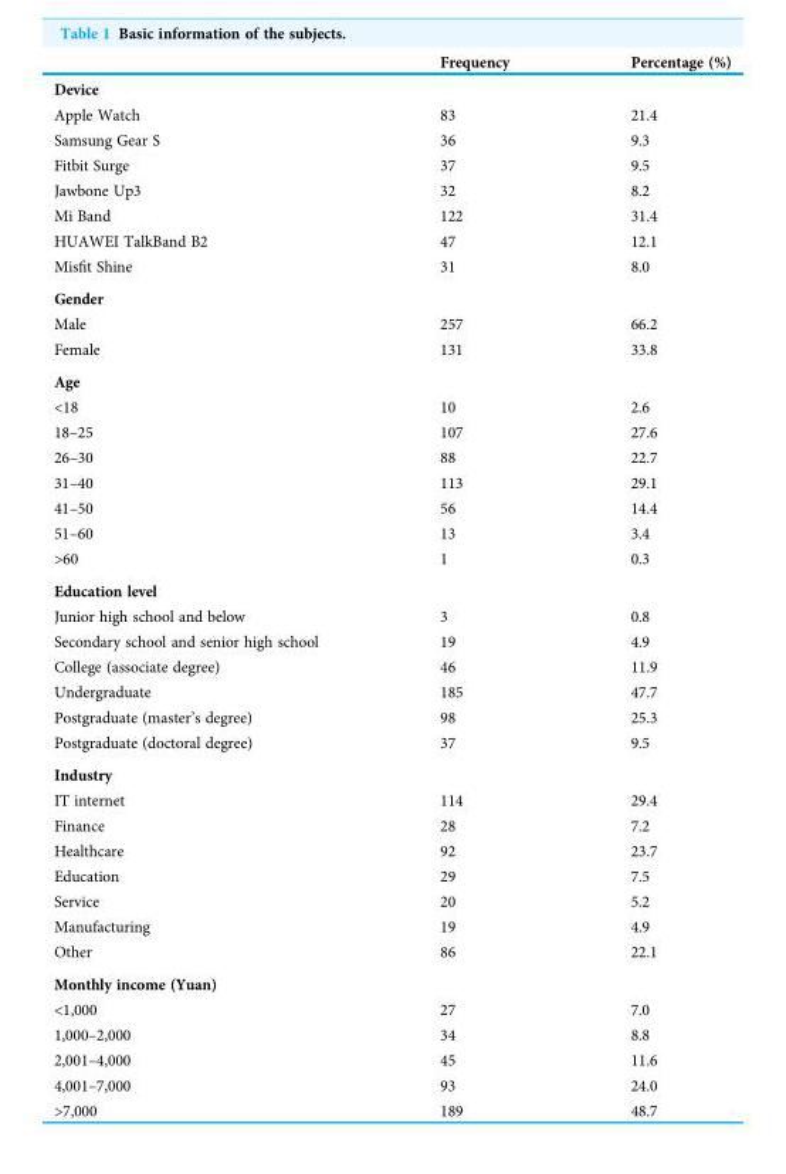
<table><thead><tr><td></td><td>Frequency</td><td>Percentage (%)</td></tr></thead><tbody><tr><td colspan="3">Device</td></tr><tr><td>Apple Watch</td><td>83</td><td>21.4</td></tr><tr><td>Samsung Gear S</td><td>36</td><td>9.3</td></tr><tr><td>Fitbit Surge</td><td>37</td><td>9.5</td></tr><tr><td>Jawbone Up3</td><td>32</td><td>8.2</td></tr><tr><td>Mi Band</td><td>122</td><td>31.4</td></tr><tr><td>HUAWEI TalkBand B2</td><td>47</td><td>12.1</td></tr><tr><td>Misfit Shine</td><td>31</td><td>8.0</td></tr><tr><td colspan="3">Gender</td></tr><tr><td>Male</td><td>257</td><td>66.2</td></tr><tr><td>Female</td><td>131</td><td>33.8</td></tr><tr><td colspan="3">Age</td></tr><tr><td>&lt;18</td><td>10</td><td>2.6</td></tr><tr><td>18–25</td><td>107</td><td>27.6</td></tr><tr><td>26–30</td><td>88</td><td>22.7</td></tr><tr><td>31–40</td><td>113</td><td>29.1</td></tr><tr><td>41–50</td><td>56</td><td>14.4</td></tr><tr><td>51–60</td><td>13</td><td>3.4</td></tr><tr><td>&gt;60</td><td>1</td><td>0.3</td></tr><tr><td colspan="3">Education level</td></tr><tr><td>Junior high school and below</td><td>3</td><td>0.8</td></tr><tr><td>Secondary school and senior high school</td><td>19</td><td>4.9</td></tr><tr><td>College (associate degree)</td><td>46</td><td>11.9</td></tr><tr><td>Undergraduate</td><td>185</td><td>47.7</td></tr><tr><td>Postgraduate (master’s degree)</td><td>98</td><td>25.3</td></tr><tr><td>Postgraduate (doctoral degree)</td><td>37</td><td>9.5</td></tr><tr><td colspan="3">Industry</td></tr><tr><td>IT internet</td><td>114</td><td>29.4</td></tr><tr><td>Finance</td><td>28</td><td>7.2</td></tr><tr><td>Healthcare</td><td>92</td><td>23.7</td></tr><tr><td>Education</td><td>29</td><td>7.5</td></tr><tr><td>Service</td><td>20</td><td>5.2</td></tr><tr><td>Manufacturing</td><td>19</td><td>4.9</td></tr><tr><td>Other</td><td>86</td><td>22.1</td></tr><tr><td colspan="3">Monthly income (Yuan)</td></tr><tr><td>&lt;1,000</td><td>27</td><td>7.0</td></tr><tr><td>1,000–2,000</td><td>34</td><td>8.8</td></tr><tr><td>2,001–4,000</td><td>45</td><td>11.6</td></tr><tr><td>4,001–7,000</td><td>93</td><td>24.0</td></tr><tr><td>&gt;7,000</td><td>189</td><td>48.7</td></tr></tbody></table>